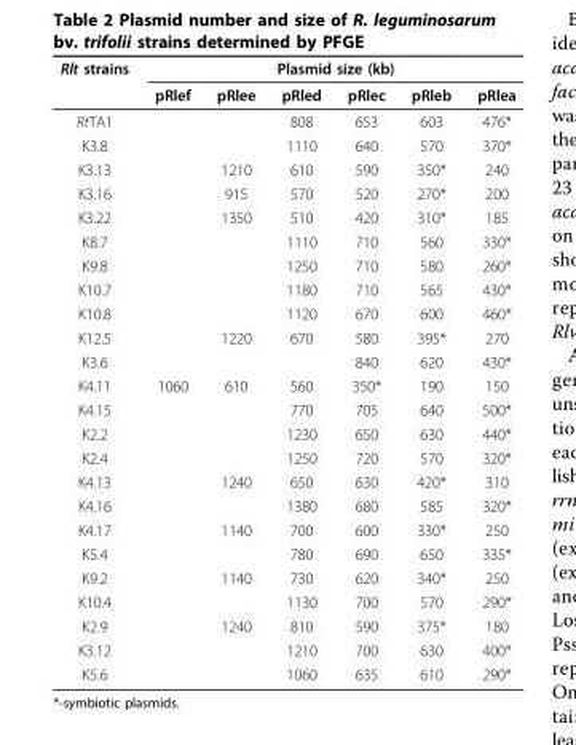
<table><thead><tr><td rowspan="2">Rlt strains</td><td colspan="6">Plasmid size (kb)</td></tr><tr><td>pRlef</td><td>pRlee</td><td>pRled</td><td>pRlec</td><td>pRleb</td><td>pRlea</td></tr></thead><tbody><tr><td>RtTA1</td><td></td><td></td><td>808</td><td>653</td><td>603</td><td>476*</td></tr><tr><td>K3.8</td><td></td><td></td><td>1110</td><td>640</td><td>570</td><td>370*</td></tr><tr><td>K3.13</td><td></td><td>1210</td><td>610</td><td>590</td><td>350*</td><td>240</td></tr><tr><td>K3.16</td><td></td><td>915</td><td>570</td><td>520</td><td>270*</td><td>200</td></tr><tr><td>K3.22</td><td></td><td>1350</td><td>510</td><td>420</td><td>310*</td><td>185</td></tr><tr><td>K8.7</td><td></td><td></td><td>1110</td><td>710</td><td>560</td><td>330*</td></tr><tr><td>K9.8</td><td></td><td></td><td>1250</td><td>710</td><td>580</td><td>260*</td></tr><tr><td>K10.7</td><td></td><td></td><td>1180</td><td>710</td><td>565</td><td>430*</td></tr><tr><td>K10.8</td><td></td><td></td><td>1120</td><td>670</td><td>600</td><td>460*</td></tr><tr><td>K12.5</td><td></td><td>1220</td><td>670</td><td>580</td><td>395*</td><td>270</td></tr><tr><td>K3.6</td><td></td><td></td><td></td><td>840</td><td>620</td><td>430*</td></tr><tr><td>K4.11</td><td>1060</td><td>610</td><td>560</td><td>350*</td><td>190</td><td>150</td></tr><tr><td>K4.15</td><td></td><td></td><td>770</td><td>705</td><td>640</td><td>500*</td></tr><tr><td>K2.2</td><td></td><td></td><td>1230</td><td>650</td><td>630</td><td>440*</td></tr><tr><td>K2.4</td><td></td><td></td><td>1250</td><td>720</td><td>570</td><td>320*</td></tr><tr><td>K4.13</td><td></td><td>1240</td><td>650</td><td>630</td><td>420*</td><td>310</td></tr><tr><td>K4.16</td><td></td><td></td><td>1380</td><td>680</td><td>585</td><td>320*</td></tr><tr><td>K4.17</td><td></td><td>1140</td><td>700</td><td>600</td><td>330*</td><td>250</td></tr><tr><td>K5.4</td><td></td><td></td><td>780</td><td>690</td><td>650</td><td>335*</td></tr><tr><td>K9.2</td><td></td><td>1140</td><td>730</td><td>620</td><td>340*</td><td>250</td></tr><tr><td>K10.4</td><td></td><td></td><td>1130</td><td>700</td><td>570</td><td>290*</td></tr><tr><td>K2.9</td><td></td><td>1240</td><td>810</td><td>590</td><td>375*</td><td>180</td></tr><tr><td>K3.12</td><td></td><td></td><td>1210</td><td>700</td><td>630</td><td>400*</td></tr><tr><td>K5.6</td><td></td><td></td><td>1060</td><td>635</td><td>610</td><td>290*</td></tr></tbody></table>